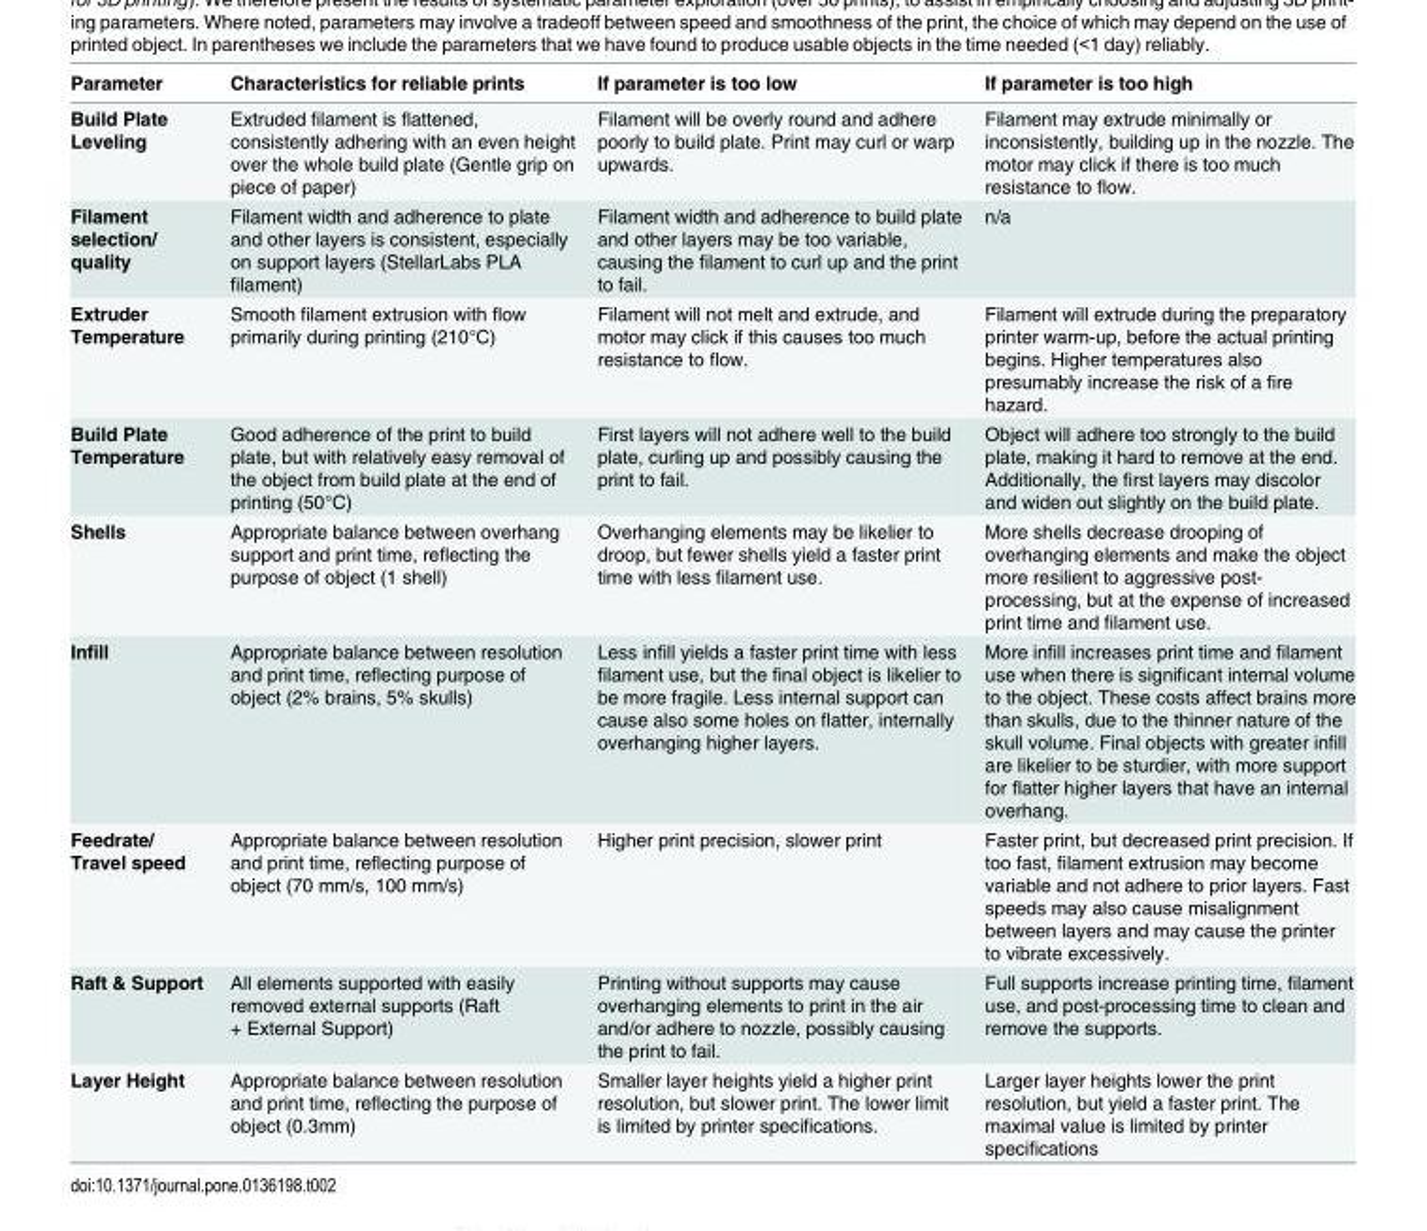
<table><thead><tr><td>Parameter</td><td>Characteristics for reliable prints</td><td>If parameter is too low</td><td>If parameter is too high</td></tr></thead><tbody><tr><td>Build Plate Leveling</td><td>Extruded filament is flattened, consistently adhering with an even height over the whole build plate (Gentle grip on piece of paper)</td><td>Filament will be overly round and adhere poorly to build plate. Print may curl or warp upwards.</td><td>Filament may extrude minimally or inconsistently, building up in the nozzle. The motor may click if there is too much resistance to flow.</td></tr><tr><td>Filament selection/ quality</td><td>Filament width and adherence to plate and other layers is consistent, especially on support layers (StellarLabs PLA filament)</td><td>Filament width and adherence to build plate and other layers may be too variable, causing the filament to curl up and the print to fail.</td><td>n/a</td></tr><tr><td>Extruder Temperature</td><td>Smooth filament extrusion with flow primarily during printing (210°C)</td><td>Filament will not melt and extrude, and motor may click if this causes too much resistance to flow.</td><td>Filament will extrude during the preparatory printer warm-up, before the actual printing begins. Higher temperatures also presumably increase the risk of a fire hazard.</td></tr><tr><td>Build Plate Temperature</td><td>Good adherence of the print to build plate, but with relatively easy removal of the object from build plate at the end of printing (50°C)</td><td>First layers will not adhere well to the build plate, curling up and possibly causing the print to fail.</td><td>Object will adhere too strongly to the build plate, making it hard to remove at the end. Additionally, the first layers may discolor and widen out slightly on the build plate.</td></tr><tr><td>Shells</td><td>Appropriate balance between overhang support and print time, reflecting the purpose of object (1 shell)</td><td>Overhanging elements may be likelier to droop, but fewer shells yield a faster print time with less filament use.</td><td>More shells decrease drooping of overhanging elements and make the object more resilient to aggressive post- processing, but at the expense of increased print time and filament use.</td></tr><tr><td>Infill</td><td>Appropriate balance between resolution and print time, reflecting purpose of object (2% brains, 5% skulls)</td><td>Less infill yields a faster print time with less filament use, but the final object is likelier to be more fragile. Less internal support can cause also some holes on flatter, internally overhanging higher layers.</td><td>More infill increases print time and filament use when there is significant internal volume to the object. These costs affect brains more than skulls, due to the thinner nature of the skull volume. Final objects with greater infill are likelier to be sturdier, with more support for flatter higher layers that have an internal overhang.</td></tr><tr><td>Feedrate/ Travel speed</td><td>Appropriate balance between resolution and print time, reflecting purpose of object (70 mm/s, 100 mm/s)</td><td>Higher print precision, slower print</td><td>Faster print, but decreased print precision. If too fast, filament extrusion may become variable and not adhere to prior layers. Fast speeds may also cause misalignment between layers and may cause the printer to vibrate excessively.</td></tr><tr><td>Raft &amp; Support</td><td>All elements supported with easily removed external supports (Raft + External Support)</td><td>Printing without supports may cause overhanging elements to print in the air and/or adhere to nozzle, possibly causing the print to fail.</td><td>Full supports increase printing time, filament use, and post-processing time to clean and remove the supports.</td></tr><tr><td>Layer Height</td><td>Appropriate balance between resolution and print time, reflecting the purpose of object (0.3mm)</td><td>Smaller layer heights yield a higher print resolution, but slower print. The lower limit is limited by printer specifications.</td><td>Larger layer heights lower the print resolution, but yield a faster print. The maximal value is limited by printer specifications</td></tr></tbody></table>